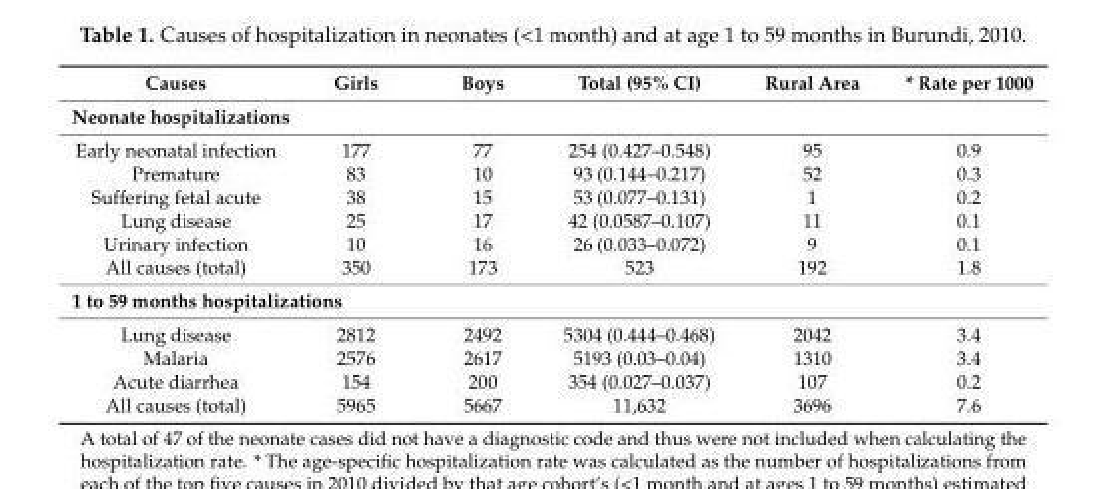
<table><thead><tr><td>Causes</td><td>Girls</td><td>Boys</td><td>Total (95% CI)</td><td>Rural Area</td><td>* Rate per 1000</td></tr></thead><tbody><tr><td colspan="6">Neonate hospitalizations</td></tr><tr><td>Early neonatal infection</td><td>177</td><td>77</td><td>254 (0.427–0.548)</td><td>95</td><td>0.9</td></tr><tr><td>Premature</td><td>83</td><td>10</td><td>93 (0.144–0.217)</td><td>52</td><td>0.3</td></tr><tr><td>Suffering fetal acute</td><td>38</td><td>15</td><td>53 (0.077–0.131)</td><td>1</td><td>0.2</td></tr><tr><td>Lung disease</td><td>25</td><td>17</td><td>42 (0.0587–0.107)</td><td>11</td><td>0.1</td></tr><tr><td>Urinary infection</td><td>10</td><td>16</td><td>26 (0.033–0.072)</td><td>9</td><td>0.1</td></tr><tr><td>All causes (total)</td><td>350</td><td>173</td><td>523</td><td>192</td><td>1.8</td></tr><tr><td colspan="6">1 to 59 months hospitalizations</td></tr><tr><td>Lung disease</td><td>2812</td><td>2492</td><td>5304 (0.444–0.468)</td><td>2042</td><td>3.4</td></tr><tr><td>Malaria</td><td>2576</td><td>2617</td><td>5193 (0.03–0.04)</td><td>1310</td><td>3.4</td></tr><tr><td>Acute diarrhea</td><td>154</td><td>200</td><td>354 (0.027–0.037)</td><td>107</td><td>0.2</td></tr><tr><td>All causes (total)</td><td>5965</td><td>5667</td><td>11,632</td><td>3696</td><td>7.6</td></tr></tbody></table>